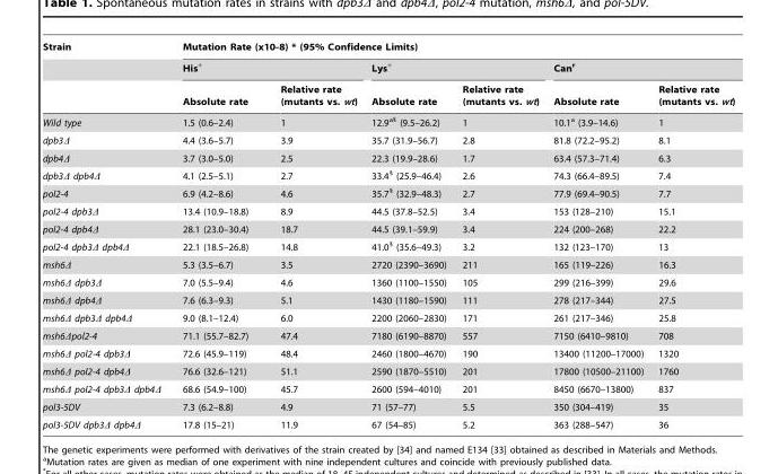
<table><thead><tr><td rowspan="3">Strain</td><td colspan="6">Mutation Rate (x10-8) * (95% Confidence Limits)</td></tr><tr><td colspan="2">His<sup>+</sup></td><td colspan="2">Lys<sup>+</sup></td><td colspan="2">Can<sup>r</sup></td></tr><tr><td>Absolute rate</td><td>Relative rate (mutants vs. wt)</td><td>Absolute rate</td><td>Relative rate (mutants vs. wt)</td><td>Absolute rate</td><td>Relative rate (mutants vs. wt)</td></tr></thead><tbody><tr><td>Wild type</td><td>1.5 (0.6–2.4)</td><td>1</td><td>12.9<sup>a</sup>§ (9.5–26.2)</td><td>1</td><td>10.1<sup>a</sup> (3.9–14.6)</td><td>1</td></tr><tr><td>dpb3Δ</td><td>4.4 (3.6–5.7)</td><td>3.9</td><td>35.7 (31.9–56.7)</td><td>2.8</td><td>81.8 (72.2–95.2)</td><td>8.1</td></tr><tr><td>dpb4Δ</td><td>3.7 (3.0–5.0)</td><td>2.5</td><td>22.3 (19.9–28.6)</td><td>1.7</td><td>63.4 (57.3–71.4)</td><td>6.3</td></tr><tr><td>dpb3Δ dpb4Δ</td><td>4.1 (2.5–5.1)</td><td>2.7</td><td>33.4§ (25.9–46.4)</td><td>2.6</td><td>74.3 (66.4–89.5)</td><td>7.4</td></tr><tr><td>pol2-4</td><td>6.9 (4.2–8.6)</td><td>4.6</td><td>35.7§ (32.9–48.3)</td><td>2.7</td><td>77.9 (69.4–90.5)</td><td>7.7</td></tr><tr><td>pol2-4 dpb3Δ</td><td>13.4 (10.9–18.8)</td><td>8.9</td><td>44.5 (37.8–52.5)</td><td>3.4</td><td>153 (128–210)</td><td>15.1</td></tr><tr><td>pol2-4 dpb4Δ</td><td>28.1 (23.0–30.4)</td><td>18.7</td><td>44.5 (39.1–59.9)</td><td>3.4</td><td>224 (200–268)</td><td>22.2</td></tr><tr><td>pol2-4 dpb3Δ dpb4Δ</td><td>22.1 (18.5–26.8)</td><td>14.8</td><td>41.0§ (35.6–49.3)</td><td>3.2</td><td>132 (123–170)</td><td>13</td></tr><tr><td>msh6Δ</td><td>5.3 (3.5–6.7)</td><td>3.5</td><td>2720 (2390–3690)</td><td>211</td><td>165 (119–226)</td><td>16.3</td></tr><tr><td>msh6Δ dpb3Δ</td><td>7.0 (5.5–9.4)</td><td>4.6</td><td>1360 (1100–1550)</td><td>105</td><td>299 (216–399)</td><td>29.6</td></tr><tr><td>msh6Δ dpb4Δ</td><td>7.6 (6.3–9.3)</td><td>5.1</td><td>1430 (1180–1590)</td><td>111</td><td>278 (217–344)</td><td>27.5</td></tr><tr><td>msh6Δ dpb3Δ dpb4Δ</td><td>9.0 (8.1–12.4)</td><td>6.0</td><td>2200 (2060–2830)</td><td>171</td><td>261 (217–346)</td><td>25.8</td></tr><tr><td>msh6Δpol2-4</td><td>71.1 (55.7–82.7)</td><td>47.4</td><td>7180 (6190–8870)</td><td>557</td><td>7150 (6410–9810)</td><td>708</td></tr><tr><td>msh6Δ pol2-4 dpb3Δ</td><td>72.6 (45.9–119)</td><td>48.4</td><td>2460 (1800–4670)</td><td>190</td><td>13400 (11200–17000)</td><td>1320</td></tr><tr><td>msh6Δ pol2-4 dpb4Δ</td><td>76.6 (32.6–121)</td><td>51.1</td><td>2590 (1870–5510)</td><td>201</td><td>17800 (10500–21100)</td><td>1760</td></tr><tr><td>msh6Δ pol2-4 dpb3Δ dpb4Δ</td><td>68.6 (54.9–100)</td><td>45.7</td><td>2600 (594–4010)</td><td>201</td><td>8450 (6670–13800)</td><td>837</td></tr><tr><td>pol3-5DV</td><td>7.3 (6.2–8.8)</td><td>4.9</td><td>71 (57–77)</td><td>5.5</td><td>350 (304–419)</td><td>35</td></tr><tr><td>pol3-5DV dpb3Δ dpb4Δ</td><td>17.8 (15–21)</td><td>11.9</td><td>67 (54–85)</td><td>5.2</td><td>363 (288–547)</td><td>36</td></tr></tbody></table>